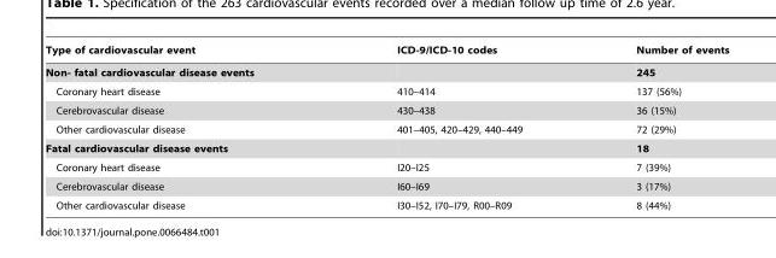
<table><thead><tr><td>Type of cardiovascular event</td><td>ICD-9/ICD-10 codes</td><td>Number of events</td></tr></thead><tbody><tr><td>Non- fatal cardiovascular disease events</td><td></td><td>245</td></tr><tr><td>Coronary heart disease</td><td>410–414</td><td>137 (56%)</td></tr><tr><td>Cerebrovascular disease</td><td>430–438</td><td>36 (15%)</td></tr><tr><td>Other cardiovascular disease</td><td>401–405, 420–429, 440–449</td><td>72 (29%)</td></tr><tr><td>Fatal cardiovascular disease events</td><td></td><td>18</td></tr><tr><td>Coronary heart disease</td><td>I20–I25</td><td>7 (39%)</td></tr><tr><td>Cerebrovascular disease</td><td>I60–I69</td><td>3 (17%)</td></tr><tr><td>Other cardiovascular disease</td><td>I30–I52, I70–I79, R00–R09</td><td>8 (44%)</td></tr></tbody></table>